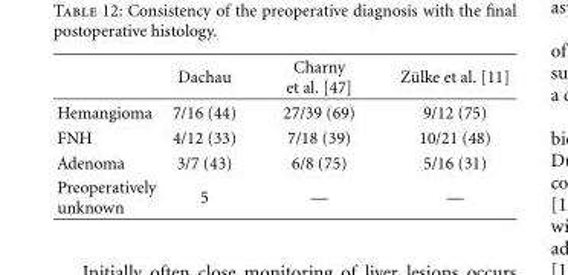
<table><thead><tr><td></td><td>Dachau</td><td>Charny et al. [47]</td><td>Z¨ulke et al. [11]</td></tr></thead><tbody><tr><td>Hemangioma</td><td>7/16 (44)</td><td>27/39 (69)</td><td>9/12 (75)</td></tr><tr><td>FNH</td><td>4/12 (33)</td><td>7/18 (39)</td><td>10/21 (48)</td></tr><tr><td>Adenoma</td><td>3/7 (43)</td><td>6/8 (75)</td><td>5/16 (31)</td></tr><tr><td>Preoperatively unknown</td><td>5</td><td>—</td><td>—</td></tr></tbody></table>